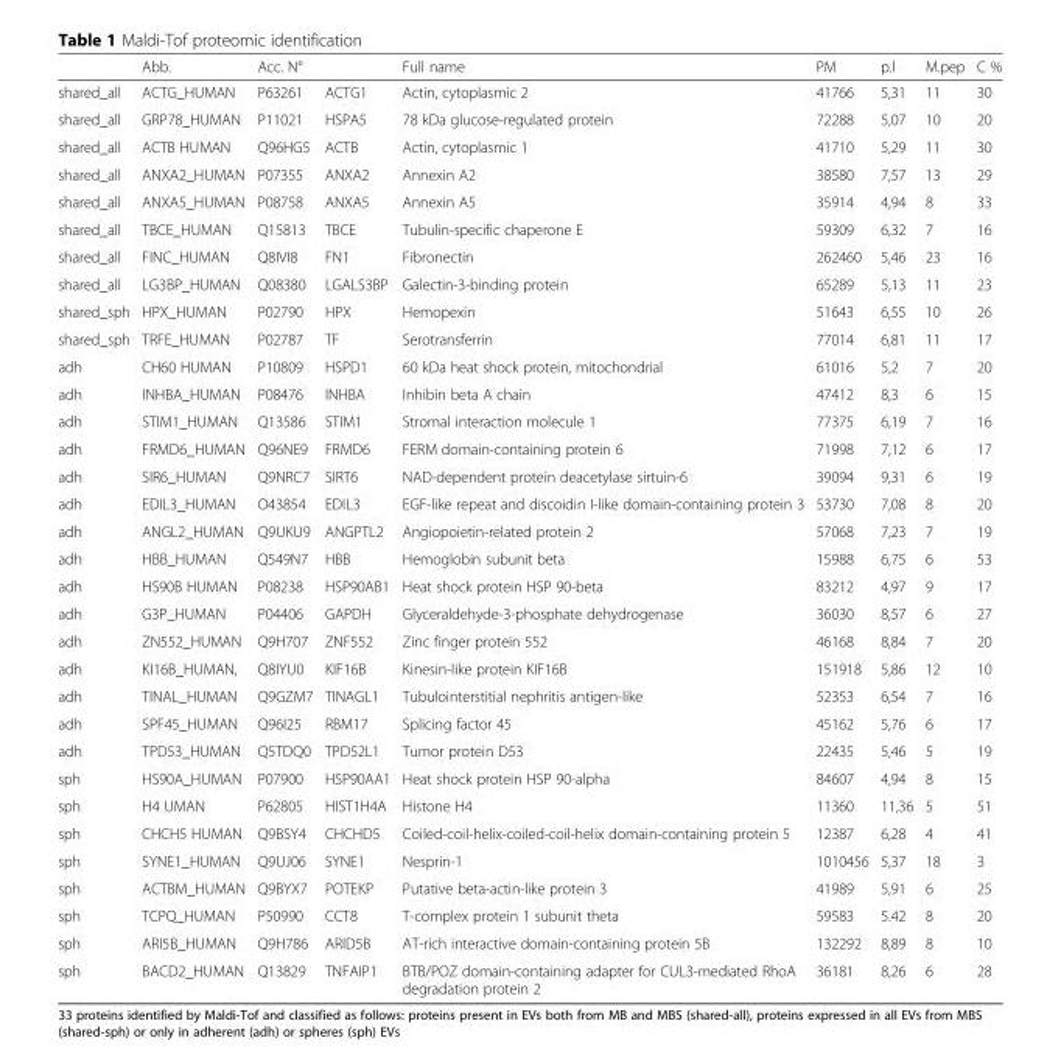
<table><thead><tr><td></td><td>Abb.</td><td>Acc. N°</td><td></td><td>Full name</td><td>PM</td><td>p.l</td><td>M.pep</td><td>C %</td></tr></thead><tbody><tr><td>shared_all</td><td>ACTG_HUMAN</td><td>P63261</td><td>ACTG1</td><td>Actin, cytoplasmic 2</td><td>41766</td><td>5,31</td><td>11</td><td>30</td></tr><tr><td>shared_all</td><td>GRP78_HUMAN</td><td>P11021</td><td>HSPA5</td><td>78 kDa glucose-regulated protein</td><td>72288</td><td>5,07</td><td>10</td><td>20</td></tr><tr><td>shared_all</td><td>ACTB HUMAN</td><td>Q96HG5</td><td>ACTB</td><td>Actin, cytoplasmic 1</td><td>41710</td><td>5,29</td><td>11</td><td>30</td></tr><tr><td>shared_all</td><td>ANXA2_HUMAN</td><td>P07355</td><td>ANXA2</td><td>Annexin A2</td><td>38580</td><td>7,57</td><td>13</td><td>29</td></tr><tr><td>shared_all</td><td>ANXA5_HUMAN</td><td>P08758</td><td>ANXA5</td><td>Annexin A5</td><td>35914</td><td>4,94</td><td>8</td><td>33</td></tr><tr><td>shared_all</td><td>TBCE_HUMAN</td><td>Q15813</td><td>TBCE</td><td>Tubulin-specific chaperone E</td><td>59309</td><td>6,32</td><td>7</td><td>16</td></tr><tr><td>shared_all</td><td>FINC_HUMAN</td><td>Q8IVI8</td><td>FN1</td><td>Fibronectin</td><td>262460</td><td>5,46</td><td>23</td><td>16</td></tr><tr><td>shared_all</td><td>LG3BP_HUMAN</td><td>Q08380</td><td>LGALS3BP</td><td>Galectin-3-binding protein</td><td>65289</td><td>5,13</td><td>11</td><td>23</td></tr><tr><td>shared_sph</td><td>HPX_HUMAN</td><td>P02790</td><td>HPX</td><td>Hemopexin</td><td>51643</td><td>6,55</td><td>10</td><td>26</td></tr><tr><td>shared_sph</td><td>TRFE_HUMAN</td><td>P02787</td><td>TF</td><td>Serotransferrin</td><td>77014</td><td>6,81</td><td>11</td><td>17</td></tr><tr><td>adh</td><td>CH60 HUMAN</td><td>P10809</td><td>HSPD1</td><td>60 kDa heat shock protein, mitochondrial</td><td>61016</td><td>5,2</td><td>7</td><td>20</td></tr><tr><td>adh</td><td>INHBA_HUMAN</td><td>P08476</td><td>INHBA</td><td>Inhibin beta A chain</td><td>47412</td><td>8,3</td><td>6</td><td>15</td></tr><tr><td>adh</td><td>STIM1_HUMAN</td><td>Q13586</td><td>STIM1</td><td>Stromal interaction molecule 1</td><td>77375</td><td>6,19</td><td>7</td><td>16</td></tr><tr><td>adh</td><td>FRMD6_HUMAN</td><td>Q96NE9</td><td>FRMD6</td><td>FERM domain-containing protein 6</td><td>71998</td><td>7,12</td><td>6</td><td>17</td></tr><tr><td>adh</td><td>SIR6_HUMAN</td><td>Q9NRC7</td><td>SIRT6</td><td>NAD-dependent protein deacetylase sirtuin-6</td><td>39094</td><td>9,31</td><td>6</td><td>19</td></tr><tr><td>adh</td><td>EDIL3_HUMAN</td><td>O43854</td><td>EDIL3</td><td>EGF-like repeat and discoidin I-like domain-containing protein 3</td><td>53730</td><td>7,08</td><td>8</td><td>20</td></tr><tr><td>adh</td><td>ANGL2_HUMAN</td><td>Q9UKU9</td><td>ANGPTL2</td><td>Angiopoietin-related protein 2</td><td>57068</td><td>7,23</td><td>7</td><td>19</td></tr><tr><td>adh</td><td>HBB_HUMAN</td><td>Q549N7</td><td>HBB</td><td>Hemoglobin subunit beta</td><td>15988</td><td>6,75</td><td>6</td><td>53</td></tr><tr><td>adh</td><td>HS90B HUMAN</td><td>P08238</td><td>HSP90AB1</td><td>Heat shock protein HSP 90-beta</td><td>83212</td><td>4,97</td><td>9</td><td>17</td></tr><tr><td>adh</td><td>G3P_HUMAN</td><td>P04406</td><td>GAPDH</td><td>Glyceraldehyde-3-phosphate dehydrogenase</td><td>36030</td><td>8,57</td><td>6</td><td>27</td></tr><tr><td>adh</td><td>ZN552_HUMAN</td><td>Q9H707</td><td>ZNF552</td><td>Zinc finger protein 552</td><td>46168</td><td>8,84</td><td>7</td><td>20</td></tr><tr><td>adh</td><td>KI16B_HUMAN,</td><td>Q8IYU0</td><td>KIF16B</td><td>Kinesin-like protein KIF16B</td><td>151918</td><td>5,86</td><td>12</td><td>10</td></tr><tr><td>adh</td><td>TINAL_HUMAN</td><td>Q9GZM7</td><td>TINAGL1</td><td>Tubulointerstitial nephritis antigen-like</td><td>52353</td><td>6,54</td><td>7</td><td>16</td></tr><tr><td>adh</td><td>SPF45_HUMAN</td><td>Q96I25</td><td>RBM17</td><td>Splicing factor 45</td><td>45162</td><td>5,76</td><td>6</td><td>17</td></tr><tr><td>adh</td><td>TPD53_HUMAN</td><td>Q5TDQ0</td><td>TPD52L1</td><td>Tumor protein D53</td><td>22435</td><td>5,46</td><td>5</td><td>19</td></tr><tr><td>sph</td><td>HS90A_HUMAN</td><td>P07900</td><td>HSP90AA1</td><td>Heat shock protein HSP 90-alpha</td><td>84607</td><td>4,94</td><td>8</td><td>15</td></tr><tr><td>sph</td><td>H4 UMAN</td><td>P62805</td><td>HIST1H4A</td><td>Histone H4</td><td>11360</td><td>11,36</td><td>5</td><td>51</td></tr><tr><td>sph</td><td>CHCH5 HUMAN</td><td>Q9BSY4</td><td>CHCHD5</td><td>Coiled-coil-helix-coiled-coil-helix domain-containing protein 5</td><td>12387</td><td>6,28</td><td>4</td><td>41</td></tr><tr><td>sph</td><td>SYNE1_HUMAN</td><td>Q9UJ06</td><td>SYNE1</td><td>Nesprin-1</td><td>1010456</td><td>5,37</td><td>18</td><td>3</td></tr><tr><td>sph</td><td>ACTBM_HUMAN</td><td>Q9BYX7</td><td>POTEKP</td><td>Putative beta-actin-like protein 3</td><td>41989</td><td>5,91</td><td>6</td><td>25</td></tr><tr><td>sph</td><td>TCPQ_HUMAN</td><td>P50990</td><td>CCT8</td><td>T-complex protein 1 subunit theta</td><td>59583</td><td>5.42</td><td>8</td><td>20</td></tr><tr><td>sph</td><td>ARI5B_HUMAN</td><td>Q9H786</td><td>ARID5B</td><td>AT-rich interactive domain-containing protein 5B</td><td>132292</td><td>8,89</td><td>8</td><td>10</td></tr><tr><td>sph</td><td>BACD2_HUMAN</td><td>Q13829</td><td>TNFAIP1</td><td>BTB/POZ domain-containing adapter for CUL3-mediated RhoA degradation protein 2</td><td>36181</td><td>8,26</td><td>6</td><td>28</td></tr></tbody></table>